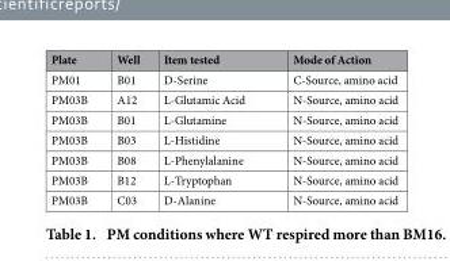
<table><thead><tr><td>Plate</td><td>Well</td><td>Item tested</td><td>Mode of Action</td></tr></thead><tbody><tr><td>PM01</td><td>B01</td><td>D-Serine</td><td>C-Source, amino acid</td></tr><tr><td>PM03B</td><td>A12</td><td>L-Glutamic Acid</td><td>N-Source, amino acid</td></tr><tr><td>PM03B</td><td>B01</td><td>L-Glutamine</td><td>N-Source, amino acid</td></tr><tr><td>PM03B</td><td>B03</td><td>L-Histidine</td><td>N-Source, amino acid</td></tr><tr><td>PM03B</td><td>B08</td><td>L-Phenylalanine</td><td>N-Source, amino acid</td></tr><tr><td>PM03B</td><td>B12</td><td>L-Tryptophan</td><td>N-Source, amino acid</td></tr><tr><td>PM03B</td><td>C03</td><td>D-Alanine</td><td>N-Source, amino acid</td></tr></tbody></table>